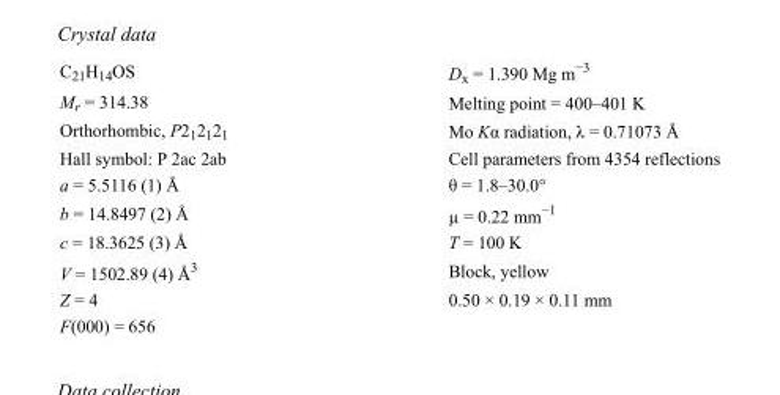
<table><tbody><tr><td>C<sub>21</sub>H<sub>14</sub>OS</td><td>D<sub>x</sub> = 1.390 Mg m<sup>−3</sup></td></tr><tr><td>M<sub>r</sub> = 314.38</td><td>Melting point = 400–401 K</td></tr><tr><td>Orthorhombic, P2<sub>1</sub>2<sub>1</sub>2<sub>1</sub></td><td>Mo Kα radiation, λ = 0.71073 Å</td></tr><tr><td>Hall symbol: P 2ac 2ab</td><td>Cell parameters from 4354 reflections</td></tr><tr><td>a = 5.5116 (1) Å</td><td>θ = 1.8–30.0°</td></tr><tr><td>b = 14.8497 (2) Å</td><td>µ = 0.22 mm<sup>−1</sup></td></tr><tr><td>c = 18.3625 (3) Å</td><td>T = 100 K</td></tr><tr><td>V = 1502.89 (4) Å<sup>3</sup></td><td>Block, yellow</td></tr><tr><td>Z = 4</td><td>0.50 × 0.19 × 0.11 mm</td></tr><tr><td>F(000) = 656</td><td></td></tr></tbody></table>